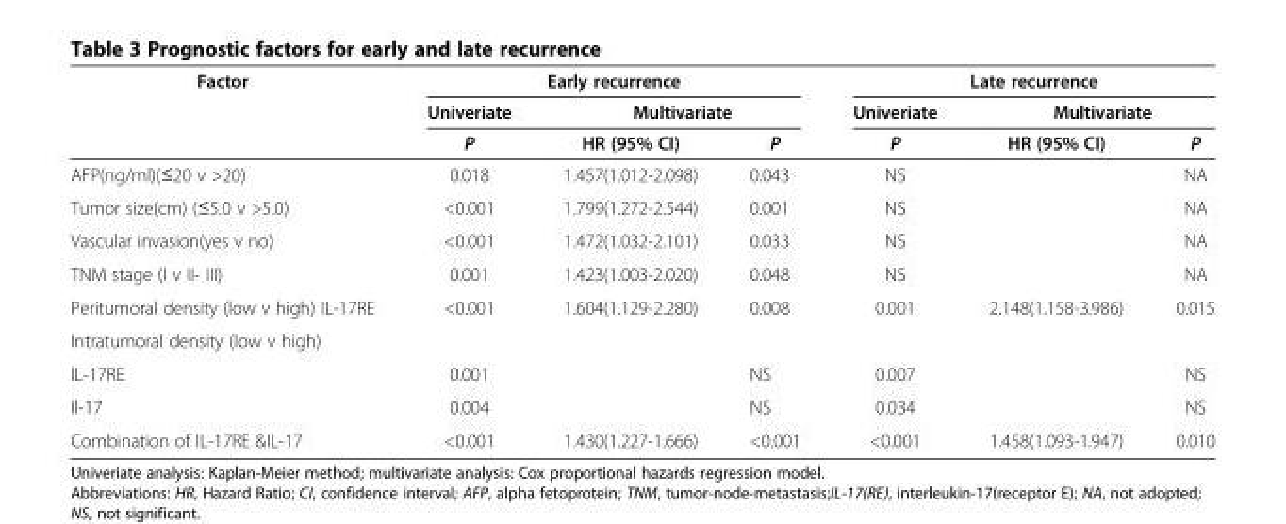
<table><thead><tr><td rowspan="3">Factor</td><td colspan="3">Early recurrence</td><td colspan="3">Late recurrence</td></tr><tr><td rowspan="2">Univeriate P</td><td colspan="2">Multivariate</td><td rowspan="2">Univeriate P</td><td colspan="2">Multivariate</td></tr><tr><td>HR (95% CI)</td><td>P</td><td>HR (95% CI)</td><td>P</td></tr></thead><tbody><tr><td>AFP(ng/ml)(≤20 v &gt;20)</td><td>0.018</td><td>1.457(1.012-2.098)</td><td>0.043</td><td>NS</td><td></td><td>NA</td></tr><tr><td>Tumor size(cm) (≤5.0 v &gt;5.0)</td><td>&lt;0.001</td><td>1.799(1.272-2.544)</td><td>0.001</td><td>NS</td><td></td><td>NA</td></tr><tr><td>Vascular invasion(yes v no)</td><td>&lt;0.001</td><td>1.472(1.032-2.101)</td><td>0.033</td><td>NS</td><td></td><td>NA</td></tr><tr><td>TNM stage (I v II- III)</td><td>0.001</td><td>1.423(1.003-2.020)</td><td>0.048</td><td>NS</td><td></td><td>NA</td></tr><tr><td>Peritumoral density (low v high) IL-17RE</td><td>&lt;0.001</td><td>1.604(1.129-2.280)</td><td>0.008</td><td>0.001</td><td>2.148(1.158-3.986)</td><td>0.015</td></tr><tr><td colspan="7">Intratumoral density (low v high)</td></tr><tr><td>IL-17RE</td><td>0.001</td><td></td><td>NS</td><td>0.007</td><td></td><td>NS</td></tr><tr><td>Il-17</td><td>0.004</td><td></td><td>NS</td><td>0.034</td><td></td><td>NS</td></tr><tr><td>Combination of IL-17RE &amp;IL-17</td><td>&lt;0.001</td><td>1.430(1.227-1.666)</td><td>&lt;0.001</td><td>&lt;0.001</td><td>1.458(1.093-1.947)</td><td>0.010</td></tr></tbody></table>